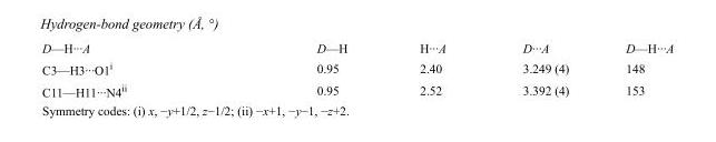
<table><tbody><tr><td>D—H···A</td><td>D—H</td><td>H···A</td><td>D···A</td><td>D—H···A</td></tr><tr><td>C3—H3···O1<sup>i</sup></td><td>0.95</td><td>2.40</td><td>3.249 (4)</td><td>148</td></tr><tr><td>C11—H11···N4<sup>ii</sup></td><td>0.95</td><td>2.52</td><td>3.392 (4)</td><td>153</td></tr></tbody></table>